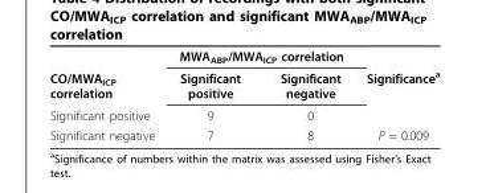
<table><thead><tr><td rowspan="2">CO/MWA<sub>ICP</sub> correlation</td><td colspan="2">MWA<sub>ABP</sub>/MWA<sub>ICP</sub> correlation</td><td rowspan="2">Significance<sup>a</sup></td></tr><tr><td>Significant positive</td><td>Significant negative</td></tr></thead><tbody><tr><td>Significant positive</td><td>9</td><td>0</td><td></td></tr><tr><td>Significant negative</td><td>7</td><td>8</td><td>P = 0.009</td></tr></tbody></table>